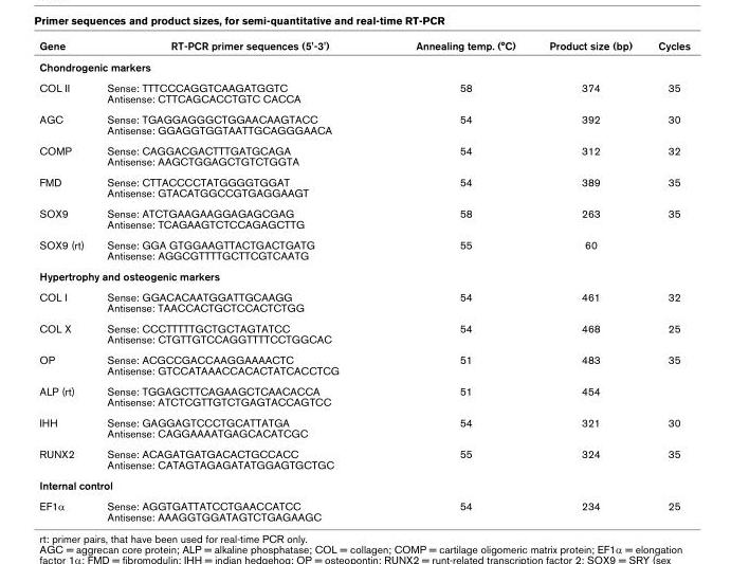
<table><thead><tr><td>Gene</td><td>RT-PCR primer sequences (5&#x27;-3&#x27;)</td><td>Annealing temp. (°C)</td><td>Product size (bp)</td><td>Cycles</td></tr></thead><tbody><tr><td colspan="5">Chondrogenic markers</td></tr><tr><td>COL II</td><td>Sense: TTTCCCAGGTCAAGATGGTC Antisense: CTTCAGCACCTGTC CACCA</td><td>58</td><td>374</td><td>35</td></tr><tr><td>AGC</td><td>Sense: TGAGGAGGGCTGGAACAAGTACC Antisense: GGAGGTGGTAATTGCAGGGAACA</td><td>54</td><td>392</td><td>30</td></tr><tr><td>COMP</td><td>Sense: CAGGACGACTTTGATGCAGA Antisense: AAGCTGGAGCTGTCTGGTA</td><td>54</td><td>312</td><td>32</td></tr><tr><td>FMD</td><td>Sense: CTTACCCCTATGGGGTGGAT Antisense: GTACATGGCCGTGAGGAAGT</td><td>54</td><td>389</td><td>35</td></tr><tr><td>SOX9</td><td>Sense: ATCTGAAGAAGGAGAGCGAG Antisense: TCAGAAGTCTCCAGAGCTTG</td><td>58</td><td>263</td><td>35</td></tr><tr><td>SOX9 (rt)</td><td>Sense: GGA GTGGAAGTTACTGACTGATG Antisense: AGGCGTTTTGCTTCGTCAATG</td><td>55</td><td>60</td><td></td></tr><tr><td colspan="5">Hypertrophy and osteogenic markers</td></tr><tr><td>COL I</td><td>Sense: GGACACAATGGATTGCAAGG Antisense: TAACCACTGCTCCACTCTGG</td><td>54</td><td>461</td><td>32</td></tr><tr><td>COL X</td><td>Sense: CCCTTTTTGCTGCTAGTATCC Antisense: CTGTTGTCCAGGTTTTCCTGGCAC</td><td>54</td><td>468</td><td>25</td></tr><tr><td>OP</td><td>Sense: ACGCCGACCAAGGAAAACTC Antisense: GTCCATAAACCACACTATCACCTCG</td><td>51</td><td>483</td><td>35</td></tr><tr><td>ALP (rt)</td><td>Sense: TGGAGCTTCAGAAGCTCAACACCA Antisense: ATCTCGTTGTCTGAGTACCAGTCC</td><td>51</td><td>454</td><td></td></tr><tr><td>IHH</td><td>Sense: GAGGAGTCCCTGCATTATGA Antisense: CAGGAAAATGAGCACATCGC</td><td>54</td><td>321</td><td>30</td></tr><tr><td>RUNX2</td><td>Sense: ACAGATGATGACACTGCCACC Antisense: CATAGTAGAGATATGGAGTGCTGC</td><td>55</td><td>324</td><td>35</td></tr><tr><td colspan="5">Internal control</td></tr><tr><td>EF1α</td><td>Sense: AGGTGATTATCCTGAACCATCC Antisense: AAAGGTGGATAGTCTGAGAAGC</td><td>54</td><td>234</td><td>25</td></tr></tbody></table>